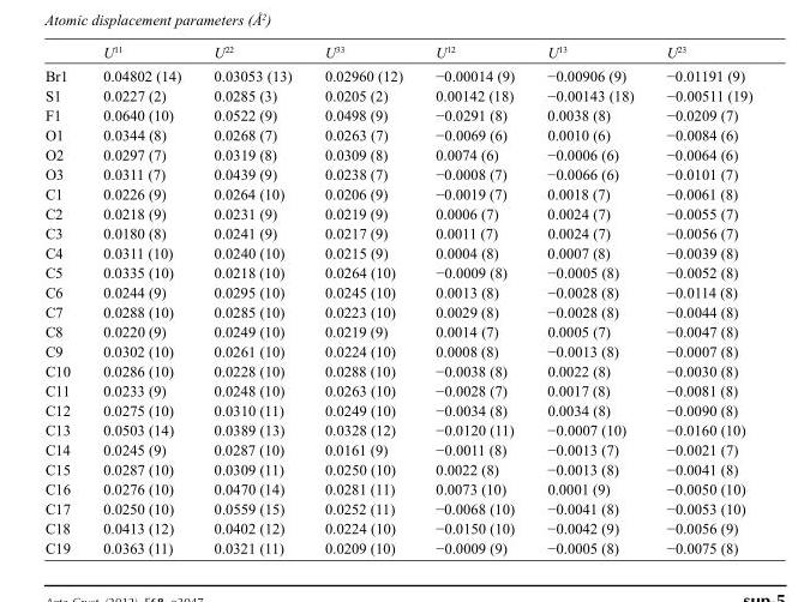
<table><thead><tr><td></td><td>U<sup>11</sup></td><td>U<sup>22</sup></td><td>U<sup>33</sup></td><td>U<sup>12</sup></td><td>U<sup>13</sup></td><td>U<sup>23</sup></td></tr></thead><tbody><tr><td>Br1</td><td>0.04802 (14)</td><td>0.03053 (13)</td><td>0.02960 (12)</td><td>−0.00014 (9)</td><td>−0.00906 (9)</td><td>−0.01191 (9)</td></tr><tr><td>S1</td><td>0.0227 (2)</td><td>0.0285 (3)</td><td>0.0205 (2)</td><td>0.00142 (18)</td><td>−0.00143 (18)</td><td>−0.00511 (19)</td></tr><tr><td>F1</td><td>0.0640 (10)</td><td>0.0522 (9)</td><td>0.0498 (9)</td><td>−0.0291 (8)</td><td>0.0038 (8)</td><td>−0.0209 (7)</td></tr><tr><td>O1</td><td>0.0344 (8)</td><td>0.0268 (7)</td><td>0.0263 (7)</td><td>−0.0069 (6)</td><td>0.0010 (6)</td><td>−0.0084 (6)</td></tr><tr><td>O2</td><td>0.0297 (7)</td><td>0.0319 (8)</td><td>0.0309 (8)</td><td>0.0074 (6)</td><td>−0.0006 (6)</td><td>−0.0064 (6)</td></tr><tr><td>O3</td><td>0.0311 (7)</td><td>0.0439 (9)</td><td>0.0238 (7)</td><td>−0.0008 (7)</td><td>−0.0066 (6)</td><td>−0.0101 (7)</td></tr><tr><td>C1</td><td>0.0226 (9)</td><td>0.0264 (10)</td><td>0.0206 (9)</td><td>−0.0019 (7)</td><td>0.0018 (7)</td><td>−0.0061 (8)</td></tr><tr><td>C2</td><td>0.0218 (9)</td><td>0.0231 (9)</td><td>0.0219 (9)</td><td>0.0006 (7)</td><td>0.0024 (7)</td><td>−0.0055 (7)</td></tr><tr><td>C3</td><td>0.0180 (8)</td><td>0.0241 (9)</td><td>0.0217 (9)</td><td>0.0011 (7)</td><td>0.0024 (7)</td><td>−0.0056 (7)</td></tr><tr><td>C4</td><td>0.0311 (10)</td><td>0.0240 (10)</td><td>0.0215 (9)</td><td>0.0004 (8)</td><td>0.0007 (8)</td><td>−0.0039 (8)</td></tr><tr><td>C5</td><td>0.0335 (10)</td><td>0.0218 (10)</td><td>0.0264 (10)</td><td>−0.0009 (8)</td><td>−0.0005 (8)</td><td>−0.0052 (8)</td></tr><tr><td>C6</td><td>0.0244 (9)</td><td>0.0295 (10)</td><td>0.0245 (10)</td><td>0.0013 (8)</td><td>−0.0028 (8)</td><td>−0.0114 (8)</td></tr><tr><td>C7</td><td>0.0288 (10)</td><td>0.0285 (10)</td><td>0.0223 (10)</td><td>0.0029 (8)</td><td>−0.0028 (8)</td><td>−0.0044 (8)</td></tr><tr><td>C8</td><td>0.0220 (9)</td><td>0.0249 (10)</td><td>0.0219 (9)</td><td>0.0014 (7)</td><td>0.0005 (7)</td><td>−0.0047 (8)</td></tr><tr><td>C9</td><td>0.0302 (10)</td><td>0.0261 (10)</td><td>0.0224 (10)</td><td>0.0008 (8)</td><td>−0.0013 (8)</td><td>−0.0007 (8)</td></tr><tr><td>C10</td><td>0.0286 (10)</td><td>0.0228 (10)</td><td>0.0288 (10)</td><td>−0.0038 (8)</td><td>0.0022 (8)</td><td>−0.0030 (8)</td></tr><tr><td>C11</td><td>0.0233 (9)</td><td>0.0248 (10)</td><td>0.0263 (10)</td><td>−0.0028 (7)</td><td>0.0017 (8)</td><td>−0.0081 (8)</td></tr><tr><td>C12</td><td>0.0275 (10)</td><td>0.0310 (11)</td><td>0.0249 (10)</td><td>−0.0034 (8)</td><td>0.0034 (8)</td><td>−0.0090 (8)</td></tr><tr><td>C13</td><td>0.0503 (14)</td><td>0.0389 (13)</td><td>0.0328 (12)</td><td>−0.0120 (11)</td><td>−0.0007 (10)</td><td>−0.0160 (10)</td></tr><tr><td>C14</td><td>0.0245 (9)</td><td>0.0287 (10)</td><td>0.0161 (9)</td><td>−0.0011 (8)</td><td>−0.0013 (7)</td><td>−0.0021 (7)</td></tr><tr><td>C15</td><td>0.0287 (10)</td><td>0.0309 (11)</td><td>0.0250 (10)</td><td>0.0022 (8)</td><td>−0.0013 (8)</td><td>−0.0041 (8)</td></tr><tr><td>C16</td><td>0.0276 (10)</td><td>0.0470 (14)</td><td>0.0281 (11)</td><td>0.0073 (10)</td><td>0.0001 (9)</td><td>−0.0050 (10)</td></tr><tr><td>C17</td><td>0.0250 (10)</td><td>0.0559 (15)</td><td>0.0252 (11)</td><td>−0.0068 (10)</td><td>−0.0041 (8)</td><td>−0.0053 (10)</td></tr><tr><td>C18</td><td>0.0413 (12)</td><td>0.0402 (12)</td><td>0.0224 (10)</td><td>−0.0150 (10)</td><td>−0.0042 (9)</td><td>−0.0056 (9)</td></tr><tr><td>C19</td><td>0.0363 (11)</td><td>0.0321 (11)</td><td>0.0209 (10)</td><td>−0.0009 (9)</td><td>−0.0005 (8)</td><td>−0.0075 (8)</td></tr></tbody></table>